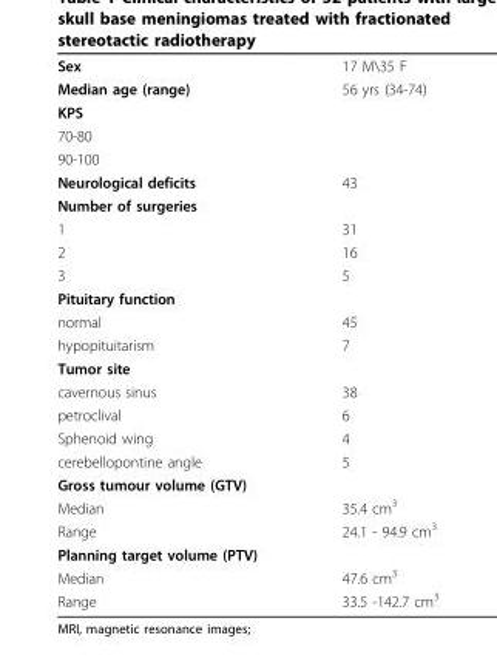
<table><tbody><tr><td>Sex</td><td>17 M\35 F</td></tr><tr><td>Median age (range)</td><td>56 yrs (34-74)</td></tr><tr><td colspan="2">KPS</td></tr><tr><td colspan="2">70-80</td></tr><tr><td colspan="2">90-100</td></tr><tr><td>Neurological deficits</td><td>43</td></tr><tr><td colspan="2">Number of surgeries</td></tr><tr><td>1</td><td>31</td></tr><tr><td>2</td><td>16</td></tr><tr><td>3</td><td>5</td></tr><tr><td colspan="2">Pituitary function</td></tr><tr><td>normal</td><td>45</td></tr><tr><td>hypopituitarism</td><td>7</td></tr><tr><td colspan="2">Tumor site</td></tr><tr><td>cavernous sinus</td><td>38</td></tr><tr><td>petroclival</td><td>6</td></tr><tr><td>Sphenoid wing</td><td>4</td></tr><tr><td>cerebellopontine angle</td><td>5</td></tr><tr><td colspan="2">Gross tumour volume (GTV)</td></tr><tr><td>Median</td><td>35.4 cm<sup>3</sup></td></tr><tr><td>Range</td><td>24.1 - 94.9 cm<sup>3</sup></td></tr><tr><td colspan="2">Planning target volume (PTV)</td></tr><tr><td>Median</td><td>47.6 cm<sup>3</sup></td></tr><tr><td>Range</td><td>33.5 -142.7 cm<sup>3</sup></td></tr></tbody></table>